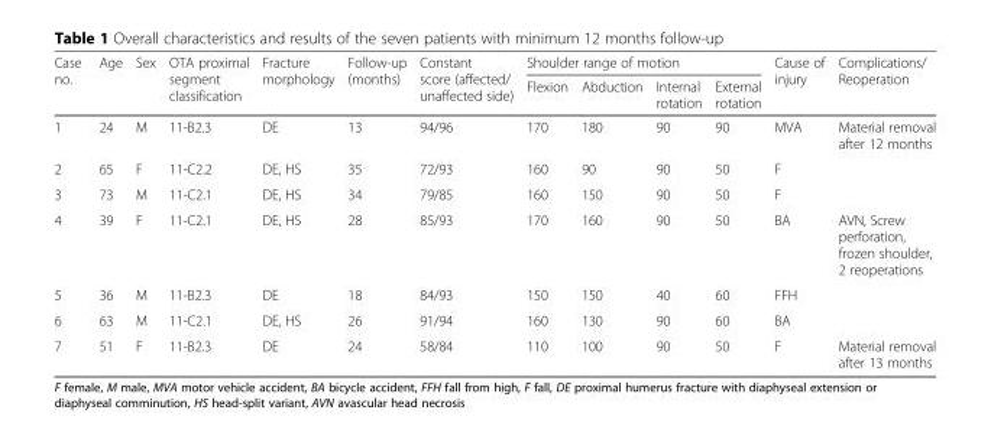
<table><thead><tr><td rowspan="2">Case no.</td><td rowspan="2">Age</td><td rowspan="2">Sex</td><td rowspan="2">OTA proximal segment classification</td><td rowspan="2">Fracture morphology</td><td rowspan="2">Follow-up (months)</td><td rowspan="2">Constant score (affected/ unaffected side)</td><td colspan="4">Shoulder range of motion</td><td rowspan="2">Cause of injury</td><td rowspan="2">Complications/ Reoperation</td></tr><tr><td>Flexion</td><td>Abduction</td><td>Internal rotation</td><td>External rotation</td></tr></thead><tbody><tr><td>1</td><td>24</td><td>M</td><td>11-B2.3</td><td>DE</td><td>13</td><td>94/96</td><td>170</td><td>180</td><td>90</td><td>90</td><td>MVA</td><td>Material removal after 12 months</td></tr><tr><td>2</td><td>65</td><td>F</td><td>11-C2.2</td><td>DE, HS</td><td>35</td><td>72/93</td><td>160</td><td>90</td><td>90</td><td>50</td><td>F</td><td></td></tr><tr><td>3</td><td>73</td><td>M</td><td>11-C2.1</td><td>DE, HS</td><td>34</td><td>79/85</td><td>160</td><td>150</td><td>90</td><td>50</td><td>F</td><td></td></tr><tr><td>4</td><td>39</td><td>F</td><td>11-C2.1</td><td>DE, HS</td><td>28</td><td>85/93</td><td>170</td><td>160</td><td>90</td><td>50</td><td>BA</td><td>AVN, Screw perforation, frozen shoulder, 2 reoperations</td></tr><tr><td>5</td><td>36</td><td>M</td><td>11-B2.3</td><td>DE</td><td>18</td><td>84/93</td><td>150</td><td>150</td><td>40</td><td>60</td><td>FFH</td><td></td></tr><tr><td>6</td><td>63</td><td>M</td><td>11-C2.1</td><td>DE, HS</td><td>26</td><td>91/94</td><td>160</td><td>130</td><td>90</td><td>60</td><td>BA</td><td></td></tr><tr><td>7</td><td>51</td><td>F</td><td>11-B2.3</td><td>DE</td><td>24</td><td>58/84</td><td>110</td><td>100</td><td>90</td><td>50</td><td>F</td><td>Material removal after 13 months</td></tr></tbody></table>